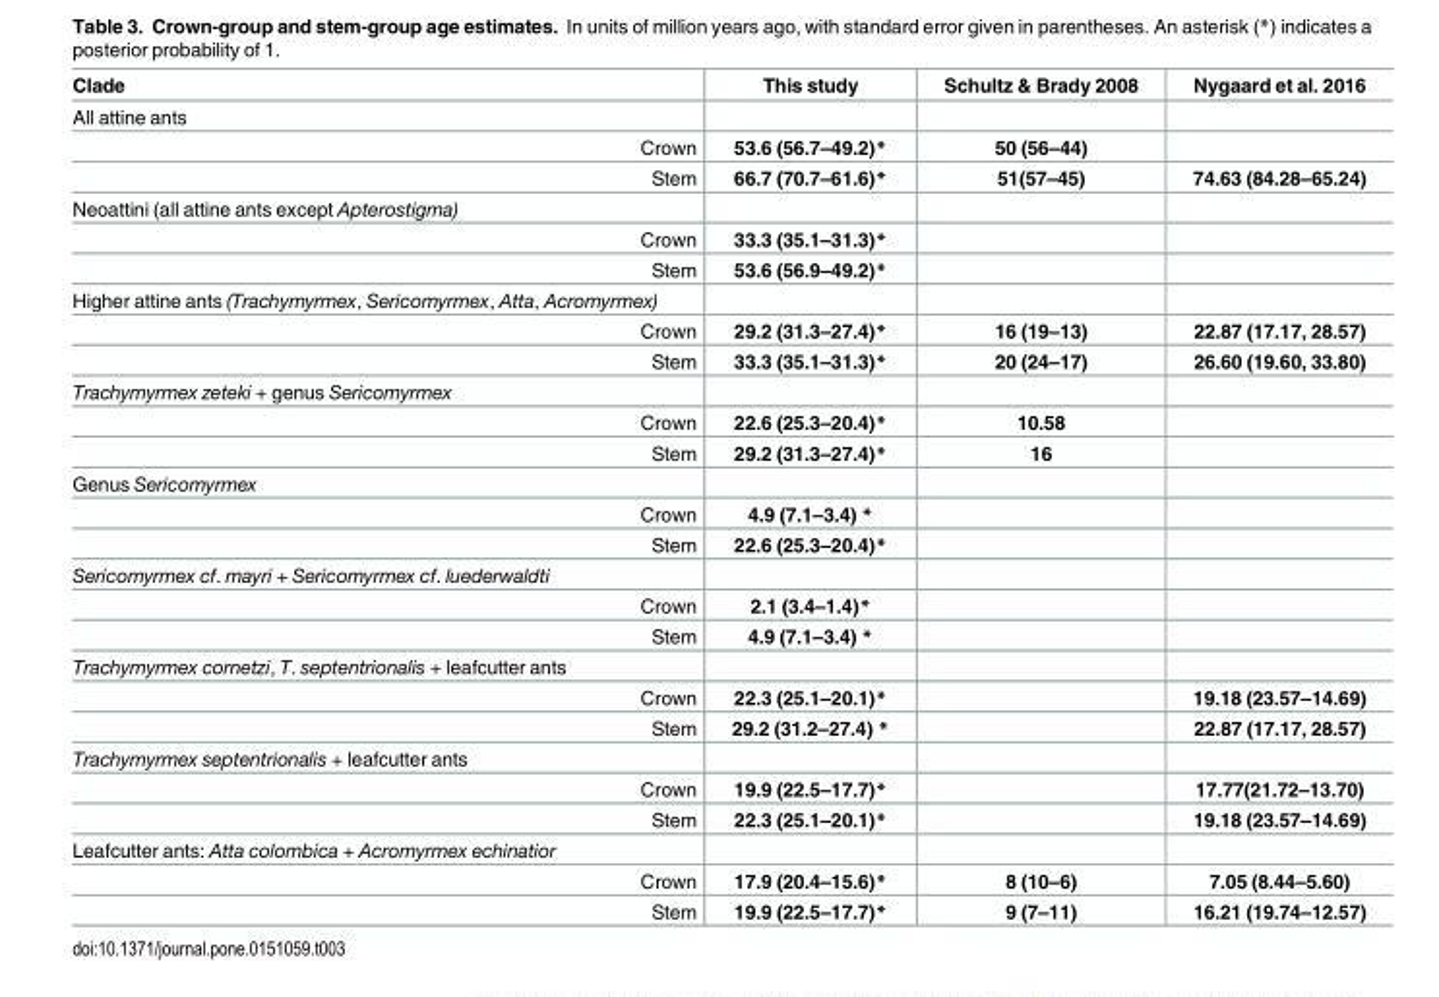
<table><thead><tr><td>Clade</td><td>This study</td><td>Schultz &amp; Brady 2008</td><td>Nygaard et al. 2016</td></tr></thead><tbody><tr><td colspan="4">All attine ants</td></tr><tr><td>Crown</td><td>53.6 (56.7–49.2)*</td><td>50 (56–44)</td><td></td></tr><tr><td>Stem</td><td>66.7 (70.7–61.6)*</td><td>51(57–45)</td><td>74.63 (84.28–65.24)</td></tr><tr><td colspan="4">Neoattini (all attine ants except Apterostigma)</td></tr><tr><td>Crown</td><td>33.3 (35.1–31.3)*</td><td></td><td></td></tr><tr><td>Stem</td><td>53.6 (56.9–49.2)*</td><td></td><td></td></tr><tr><td colspan="4">Higher attine ants (Trachymyrmex, Sericomyrmex, Atta, Acromyrmex)</td></tr><tr><td>Crown</td><td>29.2 (31.3–27.4)*</td><td>16 (19–13)</td><td>22.87 (17.17, 28.57)</td></tr><tr><td>Stem</td><td>33.3 (35.1–31.3)*</td><td>20 (24–17)</td><td>26.60 (19.60, 33.80)</td></tr><tr><td colspan="4">Trachymyrmex zeteki + genus Sericomyrmex</td></tr><tr><td>Crown</td><td>22.6 (25.3–20.4)*</td><td>10.58</td><td></td></tr><tr><td>Stem</td><td>29.2 (31.3–27.4)*</td><td>16</td><td></td></tr><tr><td colspan="4">Genus Sericomyrmex</td></tr><tr><td>Crown</td><td>4.9 (7.1–3.4) *</td><td></td><td></td></tr><tr><td>Stem</td><td>22.6 (25.3–20.4)*</td><td></td><td></td></tr><tr><td colspan="4">Sericomyrmex cf. mayri + Sericomyrmex cf. luederwaldti</td></tr><tr><td>Crown</td><td>2.1 (3.4–1.4)*</td><td></td><td></td></tr><tr><td>Stem</td><td>4.9 (7.1–3.4) *</td><td></td><td></td></tr><tr><td colspan="4">Trachymyrmex cornetzi, T. septentrionalis + leafcutter ants</td></tr><tr><td>Crown</td><td>22.3 (25.1–20.1)*</td><td></td><td>19.18 (23.57–14.69)</td></tr><tr><td>Stem</td><td>29.2 (31.2–27.4) *</td><td></td><td>22.87 (17.17, 28.57)</td></tr><tr><td colspan="4">Trachymyrmex septentrionalis + leafcutter ants</td></tr><tr><td>Crown</td><td>19.9 (22.5–17.7)*</td><td></td><td>17.77(21.72–13.70)</td></tr><tr><td>Stem</td><td>22.3 (25.1–20.1)*</td><td></td><td>19.18 (23.57–14.69)</td></tr><tr><td colspan="4">Leafcutter ants: Atta colombica + Acromyrmex echinatior</td></tr><tr><td>Crown</td><td>17.9 (20.4–15.6)*</td><td>8 (10–6)</td><td>7.05 (8.44–5.60)</td></tr><tr><td>Stem</td><td>19.9 (22.5–17.7)*</td><td>9 (7–11)</td><td>16.21 (19.74–12.57)</td></tr></tbody></table>